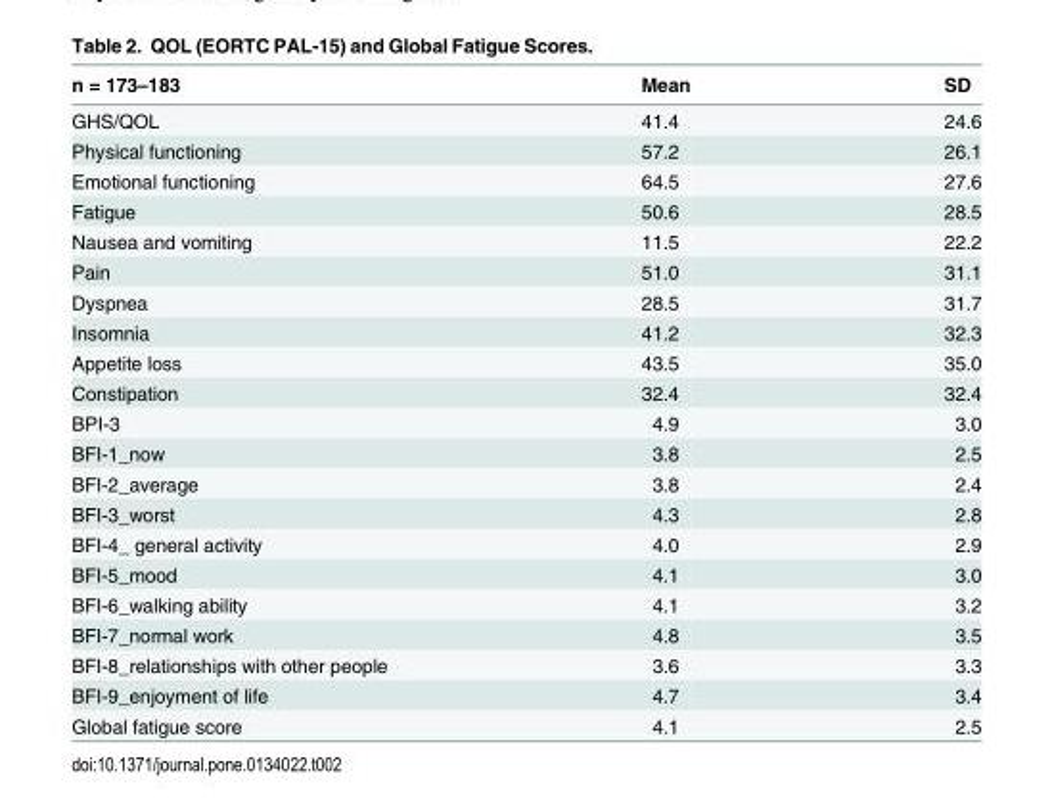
<table><thead><tr><td>n = 173–183</td><td>Mean</td><td>SD</td></tr></thead><tbody><tr><td>GHS/QOL</td><td>41.4</td><td>24.6</td></tr><tr><td>Physical functioning</td><td>57.2</td><td>26.1</td></tr><tr><td>Emotional functioning</td><td>64.5</td><td>27.6</td></tr><tr><td>Fatigue</td><td>50.6</td><td>28.5</td></tr><tr><td>Nausea and vomiting</td><td>11.5</td><td>22.2</td></tr><tr><td>Pain</td><td>51.0</td><td>31.1</td></tr><tr><td>Dyspnea</td><td>28.5</td><td>31.7</td></tr><tr><td>Insomnia</td><td>41.2</td><td>32.3</td></tr><tr><td>Appetite loss</td><td>43.5</td><td>35.0</td></tr><tr><td>Constipation</td><td>32.4</td><td>32.4</td></tr><tr><td>BPI-3</td><td>4.9</td><td>3.0</td></tr><tr><td>BFI-1_now</td><td>3.8</td><td>2.5</td></tr><tr><td>BFI-2_average</td><td>3.8</td><td>2.4</td></tr><tr><td>BFI-3_worst</td><td>4.3</td><td>2.8</td></tr><tr><td>BFI-4_ general activity</td><td>4.0</td><td>2.9</td></tr><tr><td>BFI-5_mood</td><td>4.1</td><td>3.0</td></tr><tr><td>BFI-6_walking ability</td><td>4.1</td><td>3.2</td></tr><tr><td>BFI-7_normal work</td><td>4.8</td><td>3.5</td></tr><tr><td>BFI-8_relationships with other people</td><td>3.6</td><td>3.3</td></tr><tr><td>BFI-9_enjoyment of life</td><td>4.7</td><td>3.4</td></tr><tr><td>Global fatigue score</td><td>4.1</td><td>2.5</td></tr></tbody></table>